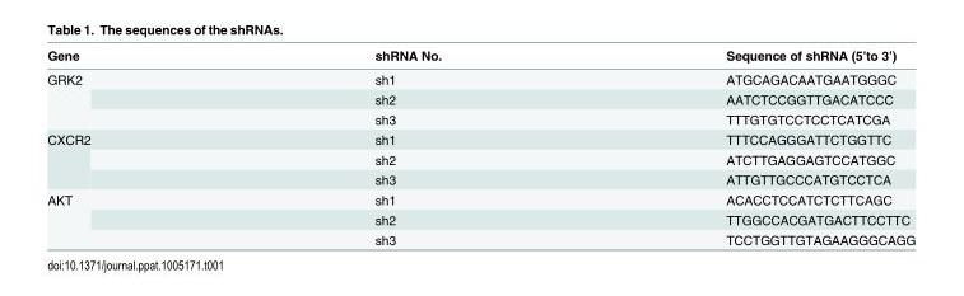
<table><thead><tr><td>Gene</td><td>shRNA No.</td><td>Sequence of shRNA (5’to 3’)</td></tr></thead><tbody><tr><td rowspan="3">GRK2</td><td>sh1</td><td>ATGCAGACAATGAATGGGC</td></tr><tr><td>sh2</td><td>AATCTCCGGTTGACATCCC</td></tr><tr><td>sh3</td><td>TTTGTGTCCTCCTCATCGA</td></tr><tr><td rowspan="3">CXCR2</td><td>sh1</td><td>TTTCCAGGGATTCTGGTTC</td></tr><tr><td>sh2</td><td>ATCTTGAGGAGTCCATGGC</td></tr><tr><td>sh3</td><td>ATTGTTGCCCATGTCCTCA</td></tr><tr><td rowspan="3">AKT</td><td>sh1</td><td>ACACCTCCATCTCTTCAGC</td></tr><tr><td>sh2</td><td>TTGGCCACGATGACTTCCTTC</td></tr><tr><td>sh3</td><td>TCCTGGTTGTAGAAGGGCAGG</td></tr></tbody></table>